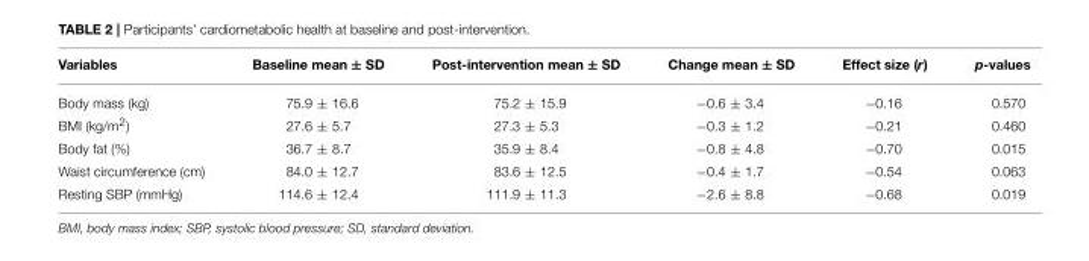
<table><thead><tr><td>Variables</td><td>Baseline mean ± SD</td><td>Post-intervention mean ± SD</td><td>Change mean ± SD</td><td>Effect size (r)</td><td>p-values</td></tr></thead><tbody><tr><td>Body mass (kg)</td><td>75.9 ± 16.6</td><td>75.2 ± 15.9</td><td>−0.6 ± 3.4</td><td>−0.16</td><td>0.570</td></tr><tr><td>BMI (kg/m<sup>2</sup>)</td><td>27.6 ± 5.7</td><td>27.3 ± 5.3</td><td>−0.3 ± 1.2</td><td>−0.21</td><td>0.460</td></tr><tr><td>Body fat (%)</td><td>36.7 ± 8.7</td><td>35.9 ± 8.4</td><td>−0.8 ± 4.8</td><td>−0.70</td><td>0.015</td></tr><tr><td>Waist circumference (cm)</td><td>84.0 ± 12.7</td><td>83.6 ± 12.5</td><td>−0.4 ± 1.7</td><td>−0.54</td><td>0.063</td></tr><tr><td>Resting SBP (mmHg)</td><td>114.6 ± 12.4</td><td>111.9 ± 11.3</td><td>−2.6 ± 8.8</td><td>−0.68</td><td>0.019</td></tr></tbody></table>